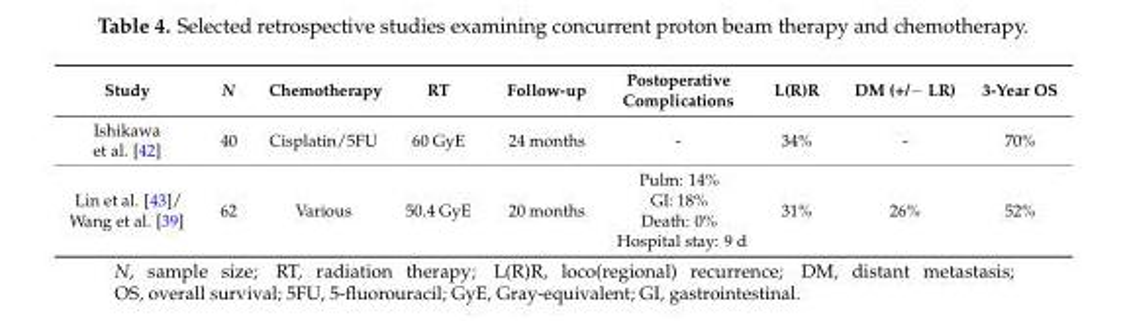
<table><thead><tr><td>Study</td><td>N</td><td>Chemotherapy</td><td>RT</td><td>Follow-up</td><td>Postoperative Complications</td><td>L(R)R</td><td>DM (+/− LR)</td><td>3-Year OS</td></tr></thead><tbody><tr><td>Ishikawa et al. [42]</td><td>40</td><td>Cisplatin/5FU</td><td>60 GyE</td><td>24 months</td><td>-</td><td>34%</td><td>-</td><td>70%</td></tr><tr><td>Lin et al. [43]/ Wang et al. [39]</td><td>62</td><td>Various</td><td>50.4 GyE</td><td>20 months</td><td>Pulm: 14% GI: 18% Death: 0% Hospital stay: 9 d</td><td>31%</td><td>26%</td><td>52%</td></tr></tbody></table>